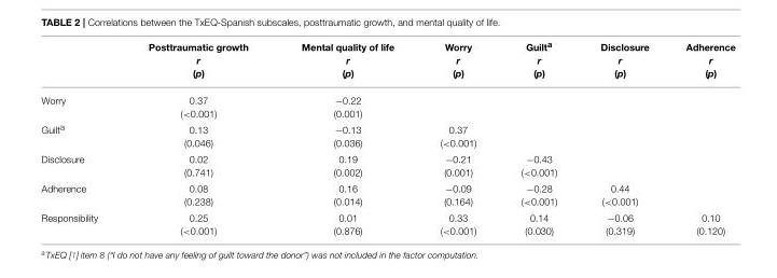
<table><thead><tr><td></td><td>Posttraumatic growth r (p)</td><td>Mental quality of life r (p)</td><td>Worry r (p)</td><td>Guilt<sup>a</sup> r (p)</td><td>Disclosure r (p)</td><td>Adherence r (p)</td></tr></thead><tbody><tr><td>Worry</td><td>0.37 (&lt;0.001)</td><td>−0.22 (0.001)</td><td></td><td></td><td></td><td></td></tr><tr><td>Guilt<sup>a</sup></td><td>0.13 (0.046)</td><td>−0.13 (0.036)</td><td>0.37 (&lt;0.001)</td><td></td><td></td><td></td></tr><tr><td>Disclosure</td><td>0.02 (0.741)</td><td>0.19 (0.002)</td><td>−0.21 (0.001)</td><td>−0.43 (&lt;0.001)</td><td></td><td></td></tr><tr><td>Adherence</td><td>0.08 (0.238)</td><td>0.16 (0.014)</td><td>−0.09 (0.164)</td><td>−0.28 (&lt;0.001)</td><td>0.44 (&lt;0.001)</td><td></td></tr><tr><td>Responsibility</td><td>0.25 (&lt;0.001)</td><td>0.01 (0.876)</td><td>0.33 (&lt;0.001)</td><td>0.14 (0.030)</td><td>−0.06 (0.319)</td><td>0.10 (0.120)</td></tr></tbody></table>